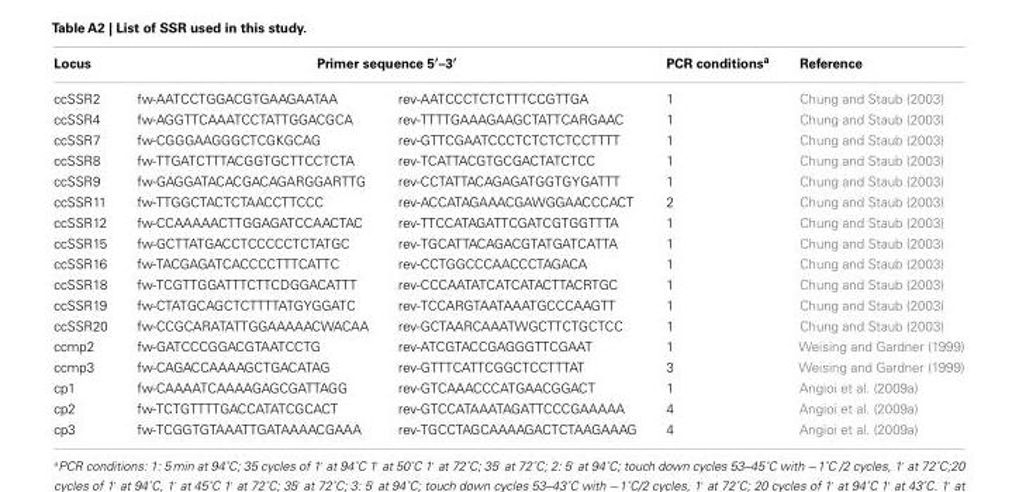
<table><thead><tr><td rowspan="2">Locus ccSSR2</td><td colspan="2">Primer sequence 5′–3′</td><td rowspan="2">PCR conditions<sup>a</sup> 1</td><td rowspan="2">Reference Chung and Staub (2003)</td></tr><tr><td>fw-AATCCTGGACGTGAAGAATAA</td><td>rev-AATCCCTCTCTTTCCGTTGA</td></tr></thead><tbody><tr><td>ccSSR4</td><td>fw-AGGTTCAAATCCTATTGGACGCA</td><td>rev-TTTTGAAAGAAGCTATTCARGAAC</td><td>1</td><td>Chung and Staub (2003)</td></tr><tr><td>ccSSR7</td><td>fw-CGGGAAGGGCTCGKGCAG</td><td>rev-GTTCGAATCCCTCTCTCTCCTTTT</td><td>1</td><td>Chung and Staub (2003)</td></tr><tr><td>ccSSR8</td><td>fw-TTGATCTTTACGGTGCTTCCTCTA</td><td>rev-TCATTACGTGCGACTATCTCC</td><td>1</td><td>Chung and Staub (2003)</td></tr><tr><td>ccSSR9</td><td>fw-GAGGATACACGACAGARGGARTTG</td><td>rev-CCTATTACAGAGATGGTGYGATTT</td><td>1</td><td>Chung and Staub (2003)</td></tr><tr><td>ccSSR11</td><td>fw-TTGGCTACTCTAACCTTCCC</td><td>rev-ACCATAGAAACGAWGGAACCCACT</td><td>2</td><td>Chung and Staub (2003)</td></tr><tr><td>ccSSR12</td><td>fw-CCAAAAACTTGGAGATCCAACTAC</td><td>rev-TTCCATAGATTCGATCGTGGTTTA</td><td>1</td><td>Chung and Staub (2003)</td></tr><tr><td>ccSSR15</td><td>fw-GCTTATGACCTCCCCCTCTATGC</td><td>rev-TGCATTACAGACGTATGATCATTA</td><td>1</td><td>Chung and Staub (2003)</td></tr><tr><td>ccSSR16</td><td>fw-TACGAGATCACCCCTTTCATTC</td><td>rev-CCTGGCCCAACCCTAGACA</td><td>1</td><td>Chung and Staub (2003)</td></tr><tr><td>ccSSR18</td><td>fw-TCGTTGGATTTCTTCDGGACATTT</td><td>rev-CCCAATATCATCATACTTACRTGC</td><td>1</td><td>Chung and Staub (2003)</td></tr><tr><td>ccSSR19</td><td>fw-CTATGCAGCTCTTTTATGYGGATC</td><td>rev-TCCARGTAATAAATGCCCAAGTT</td><td>1</td><td>Chung and Staub (2003)</td></tr><tr><td>ccSSR20</td><td>fw-CCGCARATATTGGAAAAACWACAA</td><td>rev-GCTAARCAAATWGCTTCTGCTCC</td><td>1</td><td>Chung and Staub (2003)</td></tr><tr><td>ccmp2</td><td>fw-GATCCCGGACGTAATCCTG</td><td>rev-ATCGTACCGAGGGTTCGAAT</td><td>1</td><td>Weising and Gardner (1999)</td></tr><tr><td>ccmp3</td><td>fw-CAGACCAAAAGCTGACATAG</td><td>rev-GTTTCATTCGGCTCCTTTAT</td><td>3</td><td>Weising and Gardner (1999)</td></tr><tr><td>cp1</td><td>fw-CAAAATCAAAAGAGCGATTAGG</td><td>rev-GTCAAACCCATGAACGGACT</td><td>1</td><td>Angioi et al. (2009a)</td></tr><tr><td>cp2</td><td>fw-TCTGTTTTGACCATATCGCACT</td><td>rev-GTCCATAAATAGATTCCCGAAAAA</td><td>4</td><td>Angioi et al. (2009a)</td></tr><tr><td>cp3</td><td>fw-TCGGTGTAAATTGATAAAACGAAA</td><td>rev-TGCCTAGCAAAAGACTCTAAGAAAG</td><td>4</td><td>Angioi et al. (2009a)</td></tr></tbody></table>